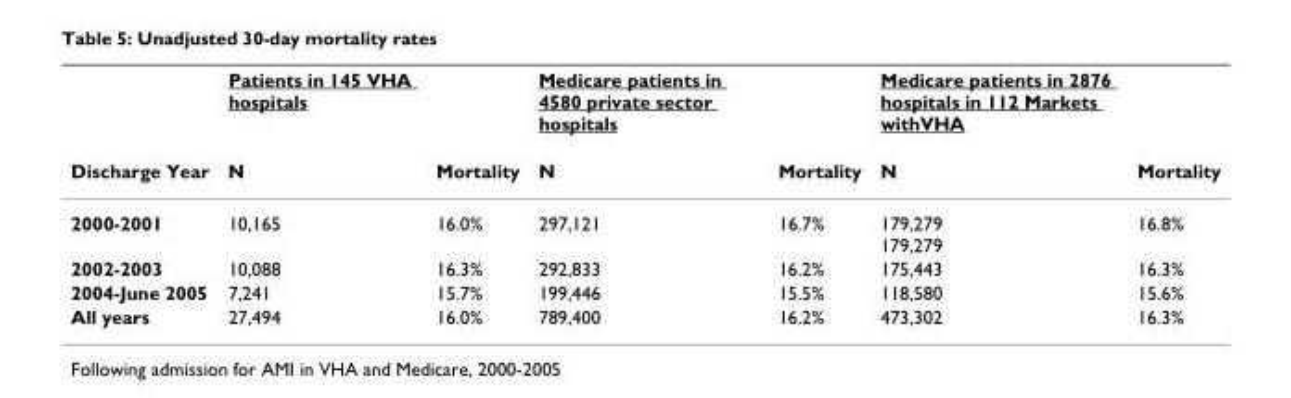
<table><thead><tr><td rowspan="2">Discharge Year</td><td rowspan="2">Patients in 145 VHA hospitals N</td><td rowspan="2">Mortality</td><td rowspan="2">Medicare patients in 4580 private sector hospitals N</td><td rowspan="2">Mortality</td><td rowspan="2">Medicare patients in 2876 hospitals in 112 Markets withVHA N</td><td rowspan="2">Mortality</td></tr><tr></tr></thead><tbody><tr><td>2000-2001</td><td>10,165</td><td>16.0%</td><td>297,121</td><td>16.7%</td><td>179,279 179,279</td><td>16.8%</td></tr><tr><td>2002-2003</td><td>10,088</td><td>16.3%</td><td>292,833</td><td>16.2%</td><td>175,443</td><td>16.3%</td></tr><tr><td>2004-June 2005</td><td>7,241</td><td>15.7%</td><td>199,446</td><td>15.5%</td><td>118,580</td><td>15.6%</td></tr><tr><td>All years</td><td>27,494</td><td>16.0%</td><td>789,400</td><td>16.2%</td><td>473,302</td><td>16.3%</td></tr></tbody></table>